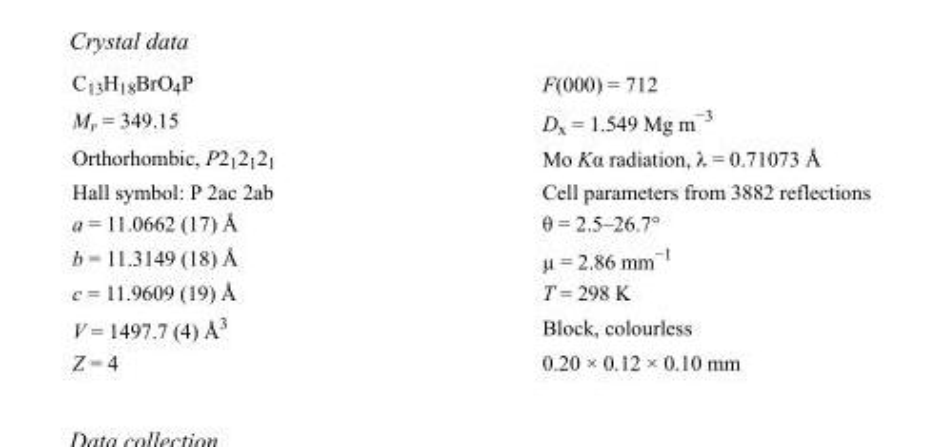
<table><tbody><tr><td>C<sub>13</sub>H<sub>18</sub>BrO<sub>4</sub>P</td><td>F(000) = 712</td></tr><tr><td>M<sub>r</sub> = 349.15</td><td>D<sub>x</sub> = 1.549 Mg m<sup>−3</sup></td></tr><tr><td>Orthorhombic, P2<sub>1</sub>2<sub>1</sub>2<sub>1</sub></td><td>Mo Kα radiation, λ = 0.71073 Å</td></tr><tr><td>Hall symbol: P 2ac 2ab</td><td>Cell parameters from 3882 reflections</td></tr><tr><td>a = 11.0662 (17) Å</td><td>θ = 2.5–26.7°</td></tr><tr><td>b = 11.3149 (18) Å</td><td>µ = 2.86 mm<sup>−1</sup></td></tr><tr><td>c = 11.9609 (19) Å</td><td>T = 298 K</td></tr><tr><td>V = 1497.7 (4) Å<sup>3</sup></td><td>Block, colourless</td></tr><tr><td>Z = 4</td><td>0.20 × 0.12 × 0.10 mm</td></tr></tbody></table>